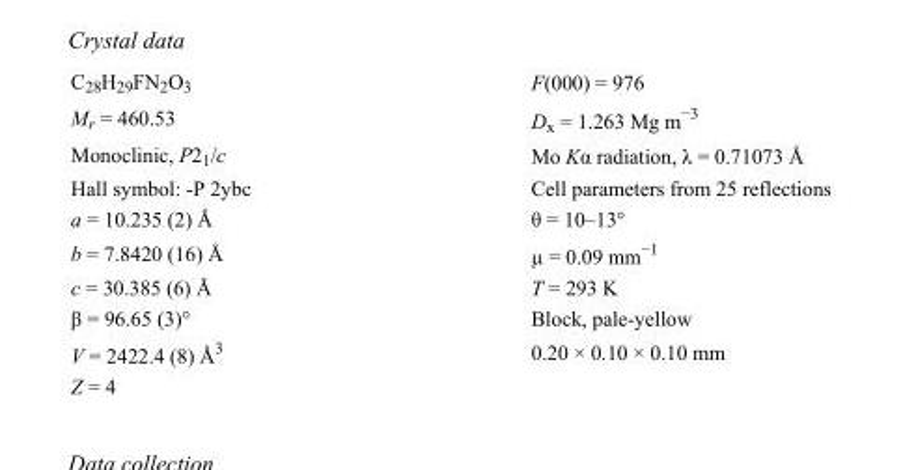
<table><tbody><tr><td>C<sub>28</sub>H<sub>29</sub>FN<sub>2</sub>O<sub>3</sub></td><td>F(000) = 976</td></tr><tr><td>M<sub>r</sub> = 460.53</td><td>D<sub>x</sub> = 1.263 Mg m<sup>−3</sup></td></tr><tr><td>Monoclinic, P2<sub>1</sub>/c</td><td>Mo Kα radiation, λ = 0.71073 Å</td></tr><tr><td>Hall symbol: -P 2ybc</td><td>Cell parameters from 25 reflections</td></tr><tr><td>a = 10.235 (2) Å</td><td>θ = 10–13°</td></tr><tr><td>b = 7.8420 (16) Å</td><td>µ = 0.09 mm<sup>−1</sup></td></tr><tr><td>c = 30.385 (6) Å</td><td>T = 293 K</td></tr><tr><td>β = 96.65 (3)°</td><td>Block, pale-yellow</td></tr><tr><td>V = 2422.4 (8) Å<sup>3</sup></td><td>0.20 × 0.10 × 0.10 mm</td></tr><tr><td>Z = 4</td><td></td></tr></tbody></table>